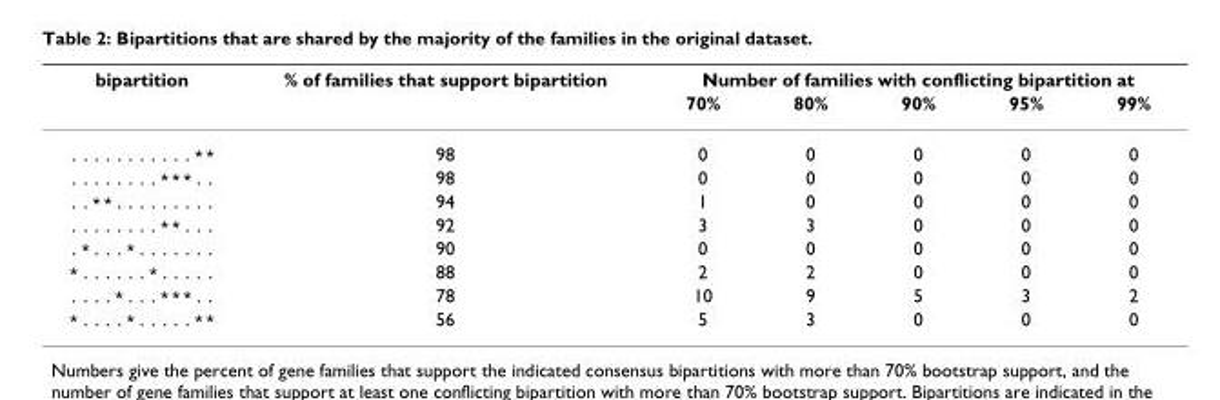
<table><thead><tr><td rowspan="2">bipartition</td><td rowspan="2">% of families that support bipartition</td><td colspan="5">Number of families with conflicting bipartition at</td></tr><tr><td>70%</td><td>80%</td><td>90%</td><td>95%</td><td>99%</td></tr></thead><tbody><tr><td>...........**</td><td>98</td><td>0</td><td>0</td><td>0</td><td>0</td><td>0</td></tr><tr><td>........***..</td><td>98</td><td>0</td><td>0</td><td>0</td><td>0</td><td>0</td></tr><tr><td>..**.........</td><td>94</td><td>1</td><td>0</td><td>0</td><td>0</td><td>0</td></tr><tr><td>........**...</td><td>92</td><td>3</td><td>3</td><td>0</td><td>0</td><td>0</td></tr><tr><td>.*...*.......</td><td>90</td><td>0</td><td>0</td><td>0</td><td>0</td><td>0</td></tr><tr><td>*......*.....</td><td>88</td><td>2</td><td>2</td><td>0</td><td>0</td><td>0</td></tr><tr><td>....*...***..</td><td>78</td><td>10</td><td>9</td><td>5</td><td>3</td><td>2</td></tr><tr><td>*....*.....**</td><td>56</td><td>5</td><td>3</td><td>0</td><td>0</td><td>0</td></tr></tbody></table>